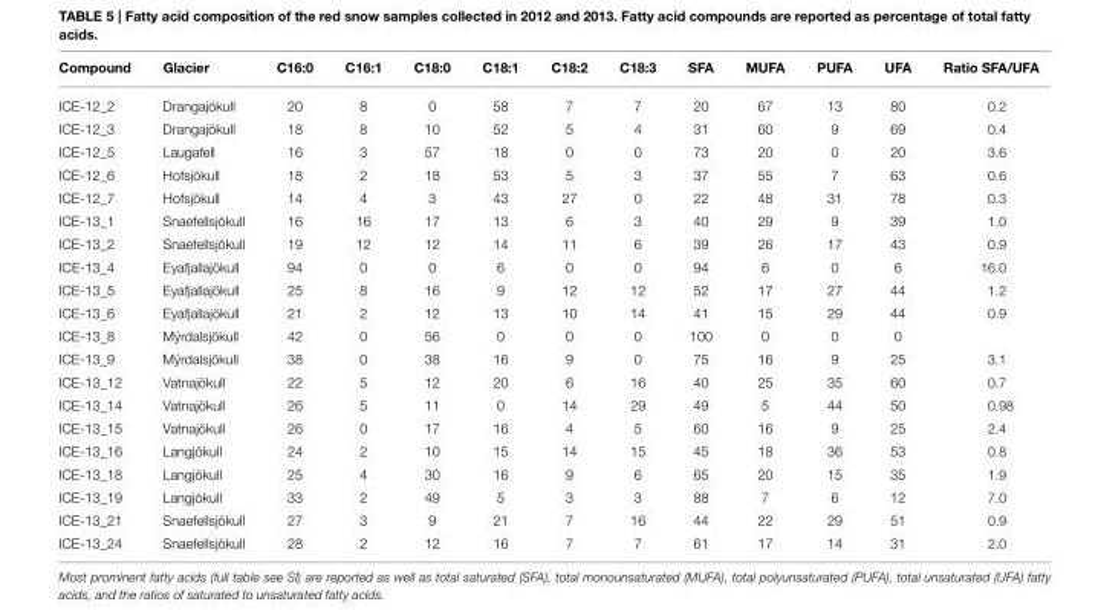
<table><thead><tr><td>Compound</td><td>Glacier</td><td>C16:0</td><td>C16:1</td><td>C18:0</td><td>C18:1</td><td>C18:2</td><td>C18:3</td><td>SFA</td><td>MUFA</td><td>PUFA</td><td>UFA</td><td>Ratio SFA/UFA</td></tr></thead><tbody><tr><td>ICE-12_2</td><td>Drangajökull</td><td>20</td><td>8</td><td>0</td><td>58</td><td>7</td><td>7</td><td>20</td><td>67</td><td>13</td><td>80</td><td>0.2</td></tr><tr><td>ICE-12_3</td><td>Drangajökull</td><td>18</td><td>8</td><td>10</td><td>52</td><td>5</td><td>4</td><td>31</td><td>60</td><td>9</td><td>69</td><td>0.4</td></tr><tr><td>ICE-12_5</td><td>Laugafell</td><td>16</td><td>3</td><td>57</td><td>18</td><td>0</td><td>0</td><td>73</td><td>20</td><td>0</td><td>20</td><td>3.6</td></tr><tr><td>ICE-12_6</td><td>Hofsjökull</td><td>18</td><td>2</td><td>18</td><td>53</td><td>5</td><td>3</td><td>37</td><td>55</td><td>7</td><td>63</td><td>0.6</td></tr><tr><td>ICE-12_7</td><td>Hofsjökull</td><td>14</td><td>4</td><td>3</td><td>43</td><td>27</td><td>0</td><td>22</td><td>48</td><td>31</td><td>78</td><td>0.3</td></tr><tr><td>ICE-13_1</td><td>Snaefellsjökull</td><td>16</td><td>16</td><td>17</td><td>13</td><td>6</td><td>3</td><td>40</td><td>29</td><td>9</td><td>39</td><td>1.0</td></tr><tr><td>ICE-13_2</td><td>Snaefellsjökull</td><td>19</td><td>12</td><td>12</td><td>14</td><td>11</td><td>6</td><td>39</td><td>26</td><td>17</td><td>43</td><td>0.9</td></tr><tr><td>ICE-13_4</td><td>Eyafjallajökull</td><td>94</td><td>0</td><td>0</td><td>6</td><td>0</td><td>0</td><td>94</td><td>6</td><td>0</td><td>6</td><td>16.0</td></tr><tr><td>ICE-13_5</td><td>Eyafjallajökull</td><td>25</td><td>8</td><td>16</td><td>9</td><td>12</td><td>12</td><td>52</td><td>17</td><td>27</td><td>44</td><td>1.2</td></tr><tr><td>ICE-13_6</td><td>Eyafjallajökull</td><td>21</td><td>2</td><td>12</td><td>13</td><td>10</td><td>14</td><td>41</td><td>15</td><td>29</td><td>44</td><td>0.9</td></tr><tr><td>ICE-13_8</td><td>Mýrdalsjökull</td><td>42</td><td>0</td><td>56</td><td>0</td><td>0</td><td>0</td><td>100</td><td>0</td><td>0</td><td>0</td><td></td></tr><tr><td>ICE-13_9</td><td>Mýrdalsjökull</td><td>38</td><td>0</td><td>38</td><td>16</td><td>9</td><td>0</td><td>75</td><td>16</td><td>9</td><td>25</td><td>3.1</td></tr><tr><td>ICE-13_12</td><td>Vatnajökull</td><td>22</td><td>5</td><td>12</td><td>20</td><td>6</td><td>16</td><td>40</td><td>25</td><td>35</td><td>60</td><td>0.7</td></tr><tr><td>ICE-13_14</td><td>Vatnajökull</td><td>26</td><td>5</td><td>11</td><td>0</td><td>14</td><td>29</td><td>49</td><td>5</td><td>44</td><td>50</td><td>0.98</td></tr><tr><td>ICE-13_15</td><td>Vatnajökull</td><td>26</td><td>0</td><td>17</td><td>16</td><td>4</td><td>5</td><td>60</td><td>16</td><td>9</td><td>25</td><td>2.4</td></tr><tr><td>ICE-13_16</td><td>Langjökull</td><td>24</td><td>2</td><td>10</td><td>15</td><td>14</td><td>15</td><td>45</td><td>18</td><td>36</td><td>53</td><td>0.8</td></tr><tr><td>ICE-13_18</td><td>Langjökull</td><td>25</td><td>4</td><td>30</td><td>16</td><td>9</td><td>6</td><td>65</td><td>20</td><td>15</td><td>35</td><td>1.9</td></tr><tr><td>ICE-13_19</td><td>Langjökull</td><td>33</td><td>2</td><td>49</td><td>5</td><td>3</td><td>3</td><td>88</td><td>7</td><td>6</td><td>12</td><td>7.0</td></tr><tr><td>ICE-13_21</td><td>Snaefellsjökull</td><td>27</td><td>3</td><td>9</td><td>21</td><td>7</td><td>16</td><td>44</td><td>22</td><td>29</td><td>51</td><td>0.9</td></tr><tr><td>ICE-13_24</td><td>Snaefellsjökull</td><td>28</td><td>2</td><td>12</td><td>16</td><td>7</td><td>7</td><td>61</td><td>17</td><td>14</td><td>31</td><td>2.0</td></tr></tbody></table>